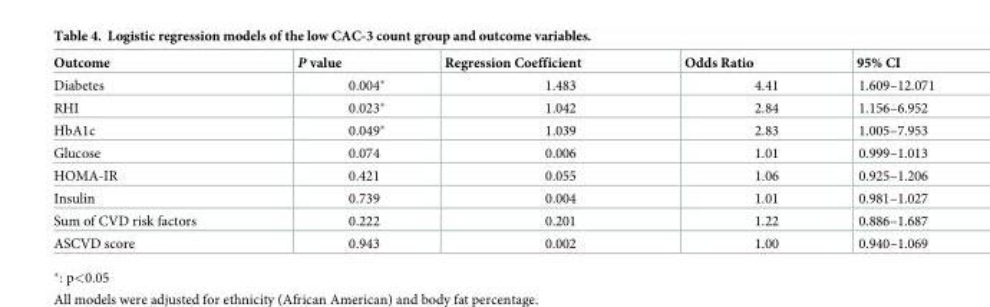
<table><thead><tr><td>Outcome</td><td>P value</td><td>Regression Coefficient</td><td>Odds Ratio</td><td>95% CI</td></tr></thead><tbody><tr><td>Diabetes</td><td>0.004*</td><td>1.483</td><td>4.41</td><td>1.609–12.071</td></tr><tr><td>RHI</td><td>0.023*</td><td>1.042</td><td>2.84</td><td>1.156–6.952</td></tr><tr><td>HbA1c</td><td>0.049*</td><td>1.039</td><td>2.83</td><td>1.005–7.953</td></tr><tr><td>Glucose</td><td>0.074</td><td>0.006</td><td>1.01</td><td>0.999–1.013</td></tr><tr><td>HOMA-IR</td><td>0.421</td><td>0.055</td><td>1.06</td><td>0.925–1.206</td></tr><tr><td>Insulin</td><td>0.739</td><td>0.004</td><td>1.01</td><td>0.981–1.027</td></tr><tr><td>Sum of CVD risk factors</td><td>0.222</td><td>0.201</td><td>1.22</td><td>0.886–1.687</td></tr><tr><td>ASCVD score</td><td>0.943</td><td>0.002</td><td>1.00</td><td>0.940–1.069</td></tr></tbody></table>